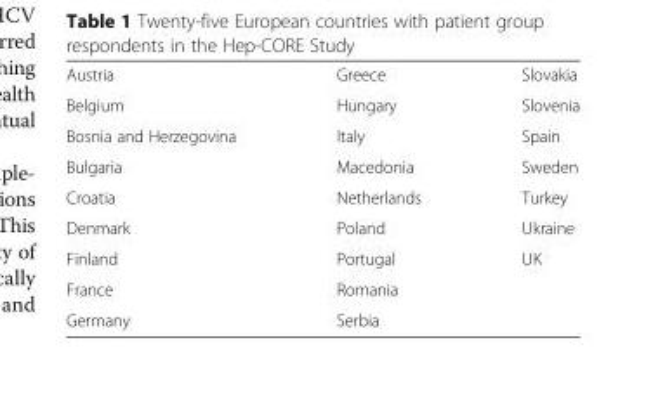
<table><tbody><tr><td>Austria</td><td>Greece</td><td>Slovakia</td></tr><tr><td>Belgium</td><td>Hungary</td><td>Slovenia</td></tr><tr><td>Bosnia and Herzegovina</td><td>Italy</td><td>Spain</td></tr><tr><td>Bulgaria</td><td>Macedonia</td><td>Sweden</td></tr><tr><td>Croatia</td><td>Netherlands</td><td>Turkey</td></tr><tr><td>Denmark</td><td>Poland</td><td>Ukraine</td></tr><tr><td>Finland</td><td>Portugal</td><td>UK</td></tr><tr><td>France</td><td>Romania</td><td></td></tr><tr><td>Germany</td><td>Serbia</td><td></td></tr></tbody></table>